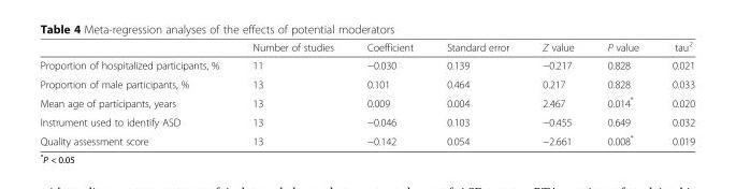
<table><thead><tr><td></td><td>Number of studies</td><td>Coefficient</td><td>Standard error</td><td>Z value</td><td>P value</td><td>tau<sup>2</sup></td></tr></thead><tbody><tr><td>Proportion of hospitalized participants, %</td><td>11</td><td>−0.030</td><td>0.139</td><td>−0.217</td><td>0.828</td><td>0.021</td></tr><tr><td>Proportion of male participants, %</td><td>13</td><td>0.101</td><td>0.464</td><td>0.217</td><td>0.828</td><td>0.033</td></tr><tr><td>Mean age of participants, years</td><td>13</td><td>0.009</td><td>0.004</td><td>2.467</td><td>0.014*</td><td>0.020</td></tr><tr><td>Instrument used to identify ASD</td><td>13</td><td>−0.046</td><td>0.103</td><td>−0.455</td><td>0.649</td><td>0.032</td></tr><tr><td>Quality assessment score</td><td>13</td><td>−0.142</td><td>0.054</td><td>−2.661</td><td>0.008*</td><td>0.019</td></tr></tbody></table>